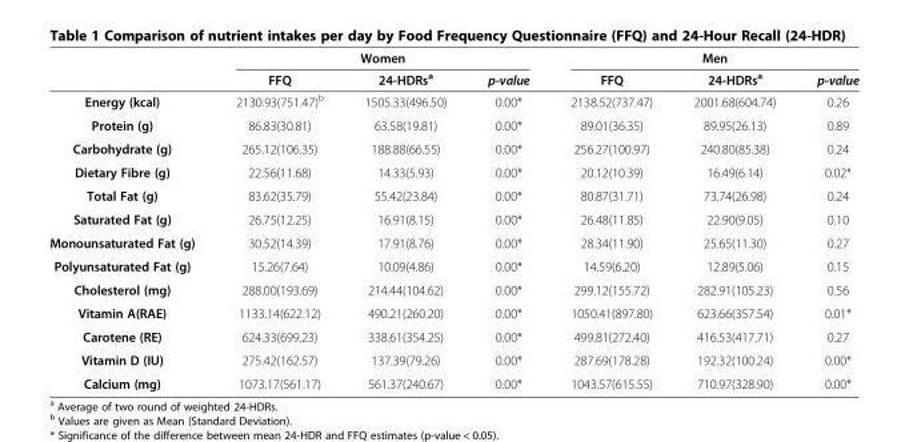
<table><thead><tr><td rowspan="2"></td><td colspan="3">Women</td><td colspan="3">Men</td></tr><tr><td>FFQ</td><td>24-HDRs<sup>a</sup></td><td>p-value</td><td>FFQ</td><td>24-HDRs<sup>a</sup></td><td>p-value</td></tr></thead><tbody><tr><td>Energy (kcal)</td><td>2130.93(751.47)<sup>b</sup></td><td>1505.33(496.50)</td><td>0.00*</td><td>2138.52(737.47)</td><td>2001.68(604.74)</td><td>0.26</td></tr><tr><td>Protein (g)</td><td>86.83(30.81)</td><td>63.58(19.81)</td><td>0.00*</td><td>89.01(36.35)</td><td>89.95(26.13)</td><td>0.89</td></tr><tr><td>Carbohydrate (g)</td><td>265.12(106.35)</td><td>188.88(66.55)</td><td>0.00*</td><td>256.27(100.97)</td><td>240.80(85.38)</td><td>0.24</td></tr><tr><td>Dietary Fibre (g)</td><td>22.56(11.68)</td><td>14.33(5.93)</td><td>0.00*</td><td>20.12(10.39)</td><td>16.49(6.14)</td><td>0.02*</td></tr><tr><td>Total Fat (g)</td><td>83.62(35.79)</td><td>55.42(23.84)</td><td>0.00*</td><td>80.87(31.71)</td><td>73.74(26.98)</td><td>0.24</td></tr><tr><td>Saturated Fat (g)</td><td>26.75(12.25)</td><td>16.91(8.15)</td><td>0.00*</td><td>26.48(11.85)</td><td>22.90(9.05)</td><td>0.10</td></tr><tr><td>Monounsaturated Fat (g)</td><td>30.52(14.39)</td><td>17.91(8.76)</td><td>0.00*</td><td>28.34(11.90)</td><td>25.65(11.30)</td><td>0.27</td></tr><tr><td>Polyunsaturated Fat (g)</td><td>15.26(7.64)</td><td>10.09(4.86)</td><td>0.00*</td><td>14.59(6.20)</td><td>12.89(5.06)</td><td>0.15</td></tr><tr><td>Cholesterol (mg)</td><td>288.00(193.69)</td><td>214.44(104.62)</td><td>0.00*</td><td>299.12(155.72)</td><td>282.91(105.23)</td><td>0.56</td></tr><tr><td>Vitamin A(RAE)</td><td>1133.14(622.12)</td><td>490.21(260.20)</td><td>0.00*</td><td>1050.41(897.80)</td><td>623.66(357.54)</td><td>0.01*</td></tr><tr><td>Carotene (RE)</td><td>624.33(699.23)</td><td>338.61(354.25)</td><td>0.00*</td><td>499.81(272.40)</td><td>416.53(417.71)</td><td>0.27</td></tr><tr><td>Vitamin D (IU)</td><td>275.42(162.57)</td><td>137.39(79.26)</td><td>0.00*</td><td>287.69(178.28)</td><td>192.32(100.24)</td><td>0.00*</td></tr><tr><td>Calcium (mg)</td><td>1073.17(561.17)</td><td>561.37(240.67)</td><td>0.00*</td><td>1043.57(615.55)</td><td>710.97(328.90)</td><td>0.00*</td></tr></tbody></table>